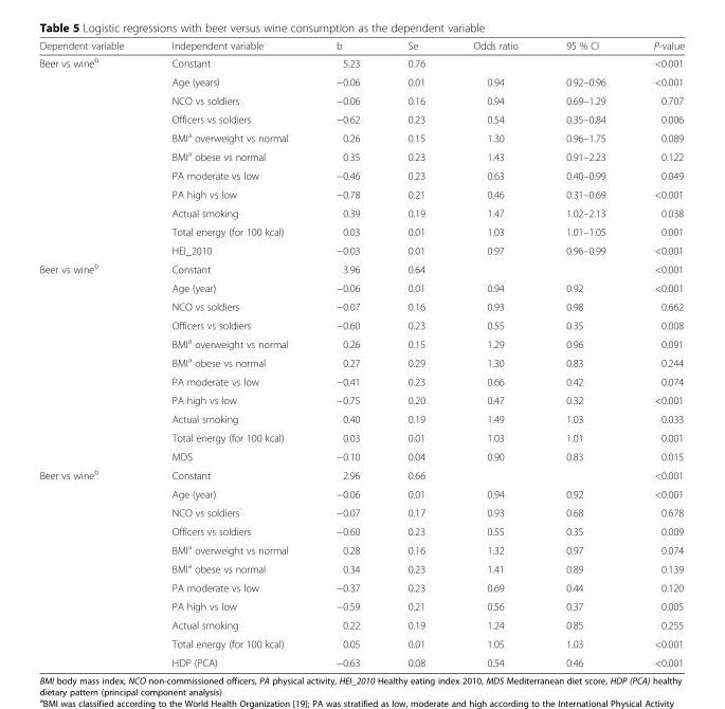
<table><thead><tr><td>Dependent variable</td><td>Independent variable</td><td>b</td><td>Se</td><td>Odds ratio</td><td>95 % CI</td><td>P-value</td></tr></thead><tbody><tr><td rowspan="11">Beer vs wine<sup>b</sup></td><td>Constant</td><td>5.23</td><td>0.76</td><td></td><td></td><td>&lt;0.001</td></tr><tr><td>Age (years)</td><td>−0.06</td><td>0.01</td><td>0.94</td><td>0.92–0.96</td><td>&lt;0.001</td></tr><tr><td>NCO vs soldiers</td><td>−0.06</td><td>0.16</td><td>0.94</td><td>0.69–1.29</td><td>0.707</td></tr><tr><td>Officers vs soldiers</td><td>−0.62</td><td>0.23</td><td>0.54</td><td>0.35–0.84</td><td>0.006</td></tr><tr><td>BMI<sup>a</sup> overweight vs normal</td><td>0.26</td><td>0.15</td><td>1.30</td><td>0.96–1.75</td><td>0.089</td></tr><tr><td>BMI<sup>a</sup> obese vs normal</td><td>0.35</td><td>0.23</td><td>1.43</td><td>0.91–2.23</td><td>0.122</td></tr><tr><td>PA moderate vs low</td><td>−0.46</td><td>0.23</td><td>0.63</td><td>0.40–0.99</td><td>0.049</td></tr><tr><td>PA high vs low</td><td>−0.78</td><td>0.21</td><td>0.46</td><td>0.31–0.69</td><td>&lt;0.001</td></tr><tr><td>Actual smoking</td><td>0.39</td><td>0.19</td><td>1.47</td><td>1.02–2.13</td><td>0.038</td></tr><tr><td>Total energy (for 100 kcal)</td><td>0.03</td><td>0.01</td><td>1.03</td><td>1.01–1.05</td><td>0.001</td></tr><tr><td>HEI_2010</td><td>−0.03</td><td>0.01</td><td>0.97</td><td>0.96–0.99</td><td>&lt;0.001</td></tr><tr><td rowspan="11">Beer vs wine<sup>b</sup></td><td>Constant</td><td>3.96</td><td>0.64</td><td></td><td></td><td>&lt;0.001</td></tr><tr><td>Age (year)</td><td>−0.06</td><td>0.01</td><td>0.94</td><td>0.92</td><td>&lt;0.001</td></tr><tr><td>NCO vs soldiers</td><td>−0.07</td><td>0.16</td><td>0.93</td><td>0.98</td><td>0.662</td></tr><tr><td>Officers vs soldiers</td><td>−0.60</td><td>0.23</td><td>0.55</td><td>0.35</td><td>0.008</td></tr><tr><td>BMI<sup>a</sup> overweight vs normal</td><td>0.26</td><td>0.15</td><td>1.29</td><td>0.96</td><td>0.091</td></tr><tr><td>BMI<sup>a</sup> obese vs normal</td><td>0.27</td><td>0.29</td><td>1.30</td><td>0.83</td><td>0.244</td></tr><tr><td>PA moderate vs low</td><td>−0.41</td><td>0.23</td><td>0.66</td><td>0.42</td><td>0.074</td></tr><tr><td>PA high vs low</td><td>−0.75</td><td>0.20</td><td>0.47</td><td>0.32</td><td>&lt;0.001</td></tr><tr><td>Actual smoking</td><td>0.40</td><td>0.19</td><td>1.49</td><td>1.03</td><td>0.033</td></tr><tr><td>Total energy (for 100 kcal)</td><td>0.03</td><td>0.01</td><td>1.03</td><td>1.01</td><td>0.001</td></tr><tr><td>MDS</td><td>−0.10</td><td>0.04</td><td>0.90</td><td>0.83</td><td>0.015</td></tr><tr><td rowspan="11">Beer vs wine<sup>b</sup></td><td>Constant</td><td>2.96</td><td>0.66</td><td></td><td></td><td>&lt;0.001</td></tr><tr><td>Age (year)</td><td>−0.06</td><td>0.01</td><td>0.94</td><td>0.92</td><td>&lt;0.001</td></tr><tr><td>NCO vs soldiers</td><td>−0.07</td><td>0.17</td><td>0.93</td><td>0.68</td><td>0.678</td></tr><tr><td>Officers vs soldiers</td><td>−0.60</td><td>0.23</td><td>0.55</td><td>0.35</td><td>0.009</td></tr><tr><td>BMI<sup>a</sup> overweight vs normal</td><td>0.28</td><td>0.16</td><td>1.32</td><td>0.97</td><td>0.074</td></tr><tr><td>BMI<sup>a</sup> obese vs normal</td><td>0.34</td><td>0.23</td><td>1.41</td><td>0.89</td><td>0.139</td></tr><tr><td>PA moderate vs low</td><td>−0.37</td><td>0.23</td><td>0.69</td><td>0.44</td><td>0.120</td></tr><tr><td>PA high vs low</td><td>−0.59</td><td>0.21</td><td>0.56</td><td>0.37</td><td>0.005</td></tr><tr><td>Actual smoking</td><td>0.22</td><td>0.19</td><td>1.24</td><td>0.85</td><td>0.255</td></tr><tr><td>Total energy (for 100 kcal)</td><td>0.05</td><td>0.01</td><td>1.05</td><td>1.03</td><td>&lt;0.001</td></tr><tr><td>HDP (PCA)</td><td>−0.63</td><td>0.08</td><td>0.54</td><td>0.46</td><td>&lt;0.001</td></tr></tbody></table>